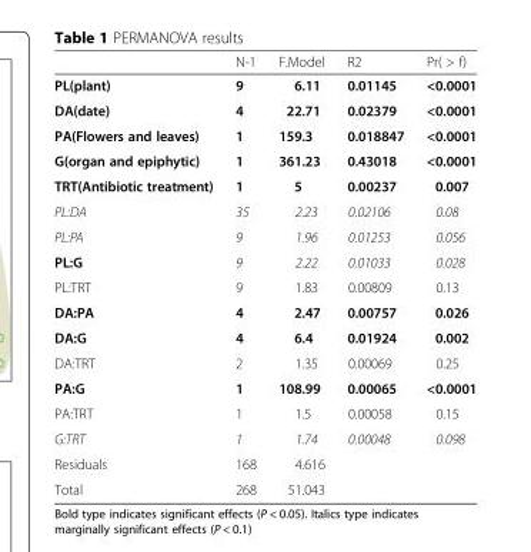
<table><thead><tr><td></td><td>N-1</td><td>F.Model</td><td>R2</td><td>Pr( &gt; f)</td></tr></thead><tbody><tr><td>PL(plant)</td><td>9</td><td>6.11</td><td>0.01145</td><td>&lt;0.0001</td></tr><tr><td>DA(date)</td><td>4</td><td>22.71</td><td>0.02379</td><td>&lt;0.0001</td></tr><tr><td>PA(Flowers and leaves)</td><td>1</td><td>159.3</td><td>0.018847</td><td>&lt;0.0001</td></tr><tr><td>G(organ and epiphytic)</td><td>1</td><td>361.23</td><td>0.43018</td><td>&lt;0.0001</td></tr><tr><td>TRT(Antibiotic treatment)</td><td>1</td><td>5</td><td>0.00237</td><td>0.007</td></tr><tr><td>PL:DA</td><td>35</td><td>2.23</td><td>0.02106</td><td>0.08</td></tr><tr><td>PL:PA</td><td>9</td><td>1.96</td><td>0.01253</td><td>0.056</td></tr><tr><td>PL:G</td><td>9</td><td>2.22</td><td>0.01033</td><td>0.028</td></tr><tr><td>PL:TRT</td><td>9</td><td>1.83</td><td>0.00809</td><td>0.13</td></tr><tr><td>DA:PA</td><td>4</td><td>2.47</td><td>0.00757</td><td>0.026</td></tr><tr><td>DA:G</td><td>4</td><td>6.4</td><td>0.01924</td><td>0.002</td></tr><tr><td>DA:TRT</td><td>2</td><td>1.35</td><td>0.00069</td><td>0.25</td></tr><tr><td>PA:G</td><td>1</td><td>108.99</td><td>0.00065</td><td>&lt;0.0001</td></tr><tr><td>PA:TRT</td><td>1</td><td>1.5</td><td>0.00058</td><td>0.15</td></tr><tr><td>G:TRT</td><td>1</td><td>1.74</td><td>0.00048</td><td>0.098</td></tr><tr><td>Residuals</td><td>168</td><td>4.616</td><td></td><td></td></tr><tr><td>Total</td><td>268</td><td>51.043</td><td></td><td></td></tr></tbody></table>